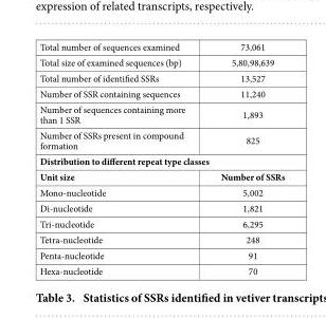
<table><tbody><tr><td>Total number of sequences examined</td><td>73,061</td></tr><tr><td>Total size of examined sequences (bp)</td><td>5,80,98,639</td></tr><tr><td>Total number of identified SSRs</td><td>13,527</td></tr><tr><td>Number of SSR containing sequences</td><td>11,240</td></tr><tr><td>Number of sequences containing more than 1 SSR</td><td>1,893</td></tr><tr><td>Number of SSRs present in compound formation</td><td>825</td></tr><tr><td colspan="2">Distribution to different repeat type classes</td></tr><tr><td>Unit size</td><td>Number of SSRs</td></tr><tr><td>Mono-nucleotide</td><td>5,002</td></tr><tr><td>Di-nucleotide</td><td>1,821</td></tr><tr><td>Tri-nucleotide</td><td>6,295</td></tr><tr><td>Tetra-nucleotide</td><td>248</td></tr><tr><td>Penta-nucleotide</td><td>91</td></tr><tr><td>Hexa-nucleotide</td><td>70</td></tr></tbody></table>